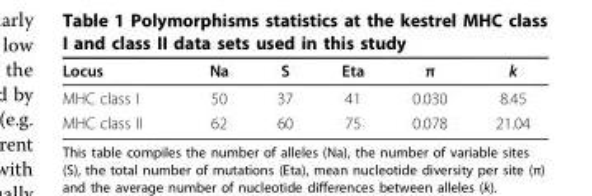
<table><thead><tr><td>Locus</td><td>Na</td><td>S</td><td>Eta</td><td>π</td><td>k</td></tr></thead><tbody><tr><td>MHC class I</td><td>50</td><td>37</td><td>41</td><td>0.030</td><td>8.45</td></tr><tr><td>MHC class II</td><td>62</td><td>60</td><td>75</td><td>0.078</td><td>21.04</td></tr></tbody></table>